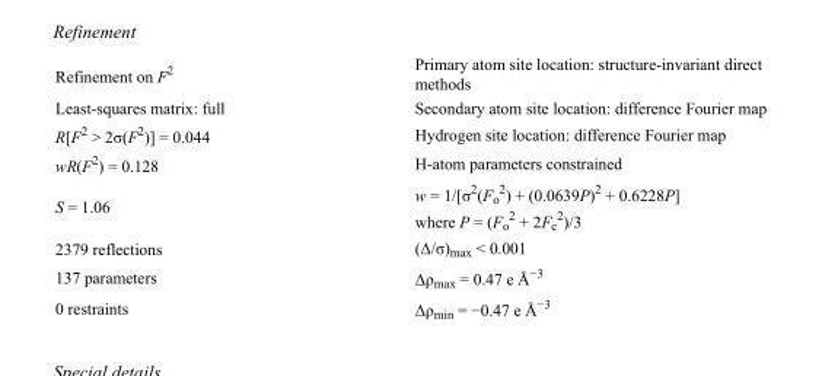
<table><tbody><tr><td>Refinement on F<sup>2</sup></td><td>Primary atom site location: structure-invariant direct methods</td></tr><tr><td>Least-squares matrix: full</td><td>Secondary atom site location: difference Fourier map</td></tr><tr><td>R[F<sup>2</sup> &gt; 2σ(F<sup>2</sup>)] = 0.044</td><td>Hydrogen site location: difference Fourier map</td></tr><tr><td>wR(F<sup>2</sup>) = 0.128</td><td>H-atom parameters constrained</td></tr><tr><td>S = 1.06</td><td>w = 1/[σ<sup>2</sup>(F<sub>o</sub> <sup>2</sup>) + (0.0639P)<sup>2</sup> + 0.6228P] where P = (F<sub>o</sub> <sup>2</sup> + 2F<sub>c</sub> <sup>2</sup>)/3</td></tr><tr><td>2379 reflections</td><td>(Δ/σ)<sub>max</sub> &lt; 0.001</td></tr><tr><td>137 parameters</td><td>Δρ<sub>max</sub> = 0.47 e Å<sup>−3</sup></td></tr><tr><td>0 restraints</td><td>Δρ<sub>min</sub> = −0.47 e Å<sup>−3</sup></td></tr></tbody></table>